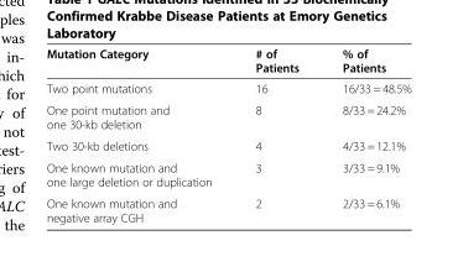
<table><thead><tr><td>Mutation Category</td><td># of Patients</td><td>% of Patients</td></tr></thead><tbody><tr><td>Two point mutations</td><td>16</td><td>16/33 = 48.5%</td></tr><tr><td>One point mutation and one 30-kb deletion</td><td>8</td><td>8/33 = 24.2%</td></tr><tr><td>Two 30-kb deletions</td><td>4</td><td>4/33 = 12.1%</td></tr><tr><td>One known mutation and one large deletion or duplication</td><td>3</td><td>3/33 = 9.1%</td></tr><tr><td>One known mutation and negative array CGH</td><td>2</td><td>2/33 = 6.1%</td></tr></tbody></table>